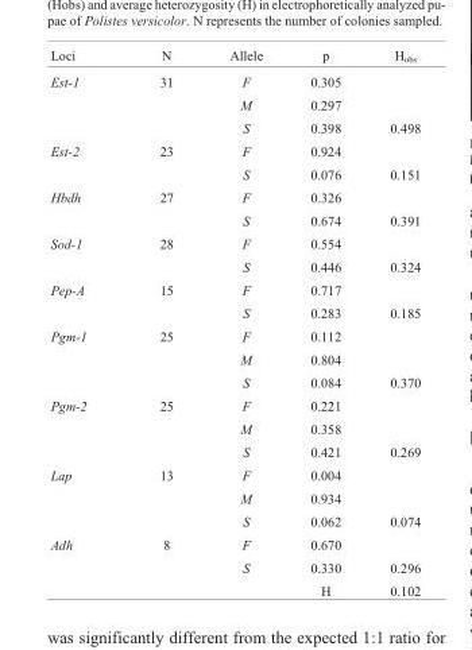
<table><thead><tr><td>Loci</td><td>N</td><td>Allele</td><td>p</td><td>H<sub>obs</sub></td></tr></thead><tbody><tr><td rowspan="3">Est-1</td><td>31</td><td>F</td><td>0.305</td><td></td></tr><tr><td></td><td>M</td><td>0.297</td><td></td></tr><tr><td></td><td>S</td><td>0.398</td><td>0.498</td></tr><tr><td rowspan="2">Est-2</td><td>23</td><td>F</td><td>0.924</td><td></td></tr><tr><td></td><td>S</td><td>0.076</td><td>0.151</td></tr><tr><td rowspan="2">Hbdh</td><td>27</td><td>F</td><td>0.326</td><td></td></tr><tr><td></td><td>S</td><td>0.674</td><td>0.391</td></tr><tr><td rowspan="2">Sod-1</td><td>28</td><td>F</td><td>0.554</td><td></td></tr><tr><td></td><td>S</td><td>0.446</td><td>0.324</td></tr><tr><td rowspan="2">Pep-A</td><td>15</td><td>F</td><td>0.717</td><td></td></tr><tr><td></td><td>S</td><td>0.283</td><td>0.185</td></tr><tr><td rowspan="3">Pgm-1</td><td>25</td><td>F</td><td>0.112</td><td></td></tr><tr><td></td><td>M</td><td>0.804</td><td></td></tr><tr><td></td><td>S</td><td>0.084</td><td>0.370</td></tr><tr><td rowspan="3">Pgm-2</td><td>25</td><td>F</td><td>0.221</td><td></td></tr><tr><td></td><td>M</td><td>0.358</td><td></td></tr><tr><td></td><td>S</td><td>0.421</td><td>0.269</td></tr><tr><td rowspan="3">Lap</td><td>13</td><td>F</td><td>0.004</td><td></td></tr><tr><td></td><td>M</td><td>0.934</td><td></td></tr><tr><td></td><td>S</td><td>0.062</td><td>0.074</td></tr><tr><td rowspan="3">Adh</td><td>8</td><td>F</td><td>0.670</td><td></td></tr><tr><td></td><td>S</td><td>0.330</td><td>0.296</td></tr><tr><td></td><td></td><td>H</td><td>0.102</td></tr></tbody></table>